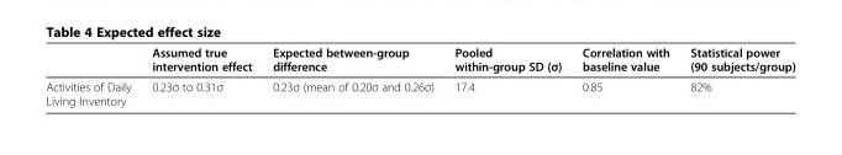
<table><thead><tr><td></td><td>Assumed true intervention effect</td><td>Expected between-group difference</td><td>Pooled within-group SD (σ)</td><td>Correlation with baseline value</td><td>Statistical power (90 subjects/group)</td></tr></thead><tbody><tr><td>Activities of Daily Living Inventory</td><td>0.23σ to 0.31σ</td><td>0.23σ (mean of 0.20σ and 0.26σ)</td><td>17.4</td><td>0.85</td><td>82%</td></tr></tbody></table>